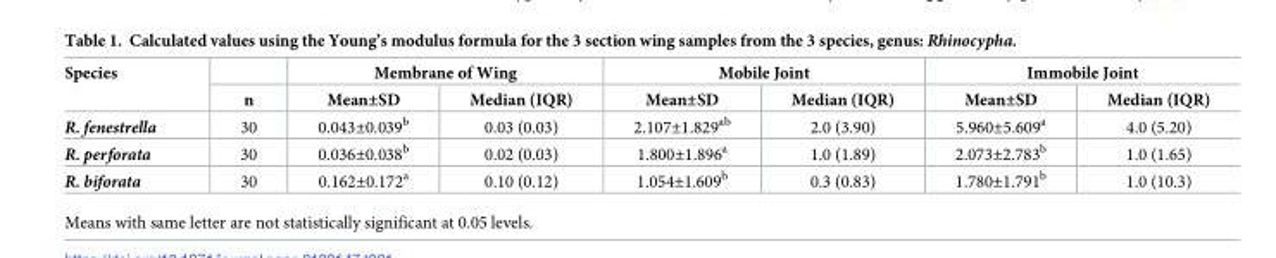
<table><thead><tr><td rowspan="2">Species</td><td rowspan="2">n</td><td colspan="2">Membrane of Wing</td><td colspan="2">Mobile Joint</td><td colspan="2">Immobile Joint</td></tr><tr><td>Mean±SD</td><td>Median (IQR)</td><td>Mean±SD</td><td>Median (IQR)</td><td>Mean±SD</td><td>Median (IQR)</td></tr></thead><tbody><tr><td>R. fenestrella</td><td>30</td><td>0.043±0.039<sup>b</sup></td><td>0.03 (0.03)</td><td>2.107±1.829<sup>ab</sup></td><td>2.0 (3.90)</td><td>5.960±5.609<sup>a</sup></td><td>4.0 (5.20)</td></tr><tr><td>R. perforata</td><td>30</td><td>0.036±0.038<sup>b</sup></td><td>0.02 (0.03)</td><td>1.800±1.896<sup>a</sup></td><td>1.0 (1.89)</td><td>2.073±2.783<sup>b</sup></td><td>1.0 (1.65)</td></tr><tr><td>R. biforata</td><td>30</td><td>0.162±0.172<sup>a</sup></td><td>0.10 (0.12)</td><td>1.054±1.609<sup>b</sup></td><td>0.3 (0.83)</td><td>1.780±1.791<sup>b</sup></td><td>1.0 (10.3)</td></tr></tbody></table>